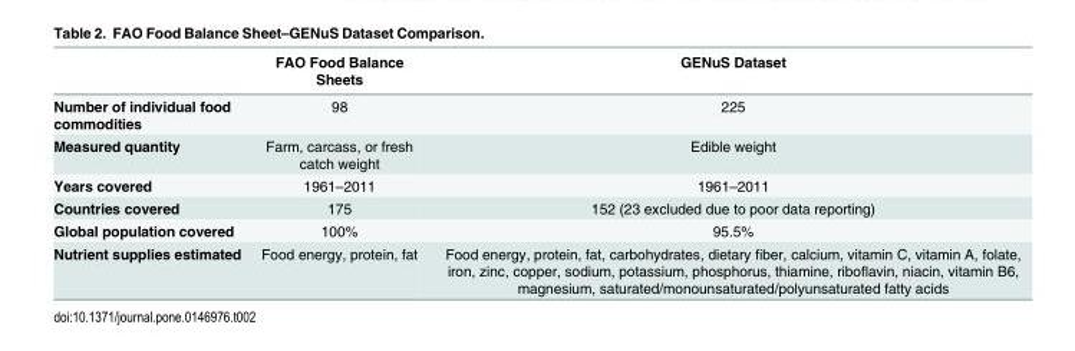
<table><thead><tr><td></td><td>FAO Food Balance Sheets</td><td>GENuS Dataset</td></tr></thead><tbody><tr><td>Number of individual food commodities</td><td>98</td><td>225</td></tr><tr><td>Measured quantity</td><td>Farm, carcass, or fresh catch weight</td><td>Edible weight</td></tr><tr><td>Years covered</td><td>1961–2011</td><td>1961–2011</td></tr><tr><td>Countries covered</td><td>175</td><td>152 (23 excluded due to poor data reporting)</td></tr><tr><td>Global population covered</td><td>100%</td><td>95.5%</td></tr><tr><td>Nutrient supplies estimated</td><td>Food energy, protein, fat</td><td>Food energy, protein, fat, carbohydrates, dietary fiber, calcium, vitamin C, vitamin A, folate, iron, zinc, copper, sodium, potassium, phosphorus, thiamine, riboflavin, niacin, vitamin B6, magnesium, saturated/monounsaturated/polyunsaturated fatty acids</td></tr></tbody></table>